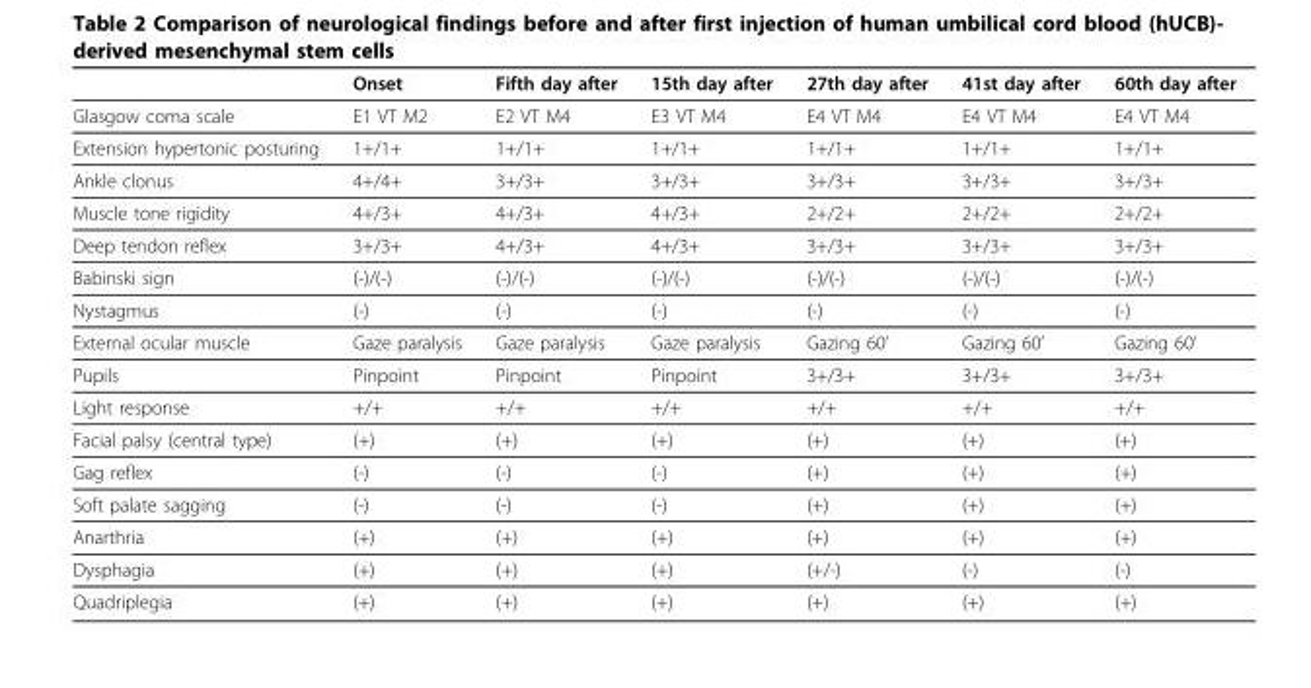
<table><thead><tr><td></td><td>Onset</td><td>Fifth day after</td><td>15th day after</td><td>27th day after</td><td>41st day after</td><td>60th day after</td></tr></thead><tbody><tr><td>Glasgow coma scale</td><td>E1 VT M2</td><td>E2 VT M4</td><td>E3 VT M4</td><td>E4 VT M4</td><td>E4 VT M4</td><td>E4 VT M4</td></tr><tr><td>Extension hypertonic posturing</td><td>1+/1+</td><td>1+/1+</td><td>1+/1+</td><td>1+/1+</td><td>1+/1+</td><td>1+/1+</td></tr><tr><td>Ankle clonus</td><td>4+/4+</td><td>3+/3+</td><td>3+/3+</td><td>3+/3+</td><td>3+/3+</td><td>3+/3+</td></tr><tr><td>Muscle tone rigidity</td><td>4+/3+</td><td>4+/3+</td><td>4+/3+</td><td>2+/2+</td><td>2+/2+</td><td>2+/2+</td></tr><tr><td>Deep tendon reflex</td><td>3+/3+</td><td>4+/3+</td><td>4+/3+</td><td>3+/3+</td><td>3+/3+</td><td>3+/3+</td></tr><tr><td>Babinski sign</td><td>(-)/(-)</td><td>(-)/(-)</td><td>(-)/(-)</td><td>(-)/(-)</td><td>(-)/(-)</td><td>(-)/(-)</td></tr><tr><td>Nystagmus</td><td>(-)</td><td>(-)</td><td>(-)</td><td>(-)</td><td>(-)</td><td>(-)</td></tr><tr><td>External ocular muscle</td><td>Gaze paralysis</td><td>Gaze paralysis</td><td>Gaze paralysis</td><td>Gazing 60’</td><td>Gazing 60’</td><td>Gazing 60’</td></tr><tr><td>Pupils</td><td>Pinpoint</td><td>Pinpoint</td><td>Pinpoint</td><td>3+/3+</td><td>3+/3+</td><td>3+/3+</td></tr><tr><td>Light response</td><td>+/+</td><td>+/+</td><td>+/+</td><td>+/+</td><td>+/+</td><td>+/+</td></tr><tr><td>Facial palsy (central type)</td><td>(+)</td><td>(+)</td><td>(+)</td><td>(+)</td><td>(+)</td><td>(+)</td></tr><tr><td>Gag reflex</td><td>(-)</td><td>(-)</td><td>(-)</td><td>(+)</td><td>(+)</td><td>(+)</td></tr><tr><td>Soft palate sagging</td><td>(-)</td><td>(-)</td><td>(-)</td><td>(+)</td><td>(+)</td><td>(+)</td></tr><tr><td>Anarthria</td><td>(+)</td><td>(+)</td><td>(+)</td><td>(+)</td><td>(+)</td><td>(+)</td></tr><tr><td>Dysphagia</td><td>(+)</td><td>(+)</td><td>(+)</td><td>(+/-)</td><td>(-)</td><td>(-)</td></tr><tr><td>Quadriplegia</td><td>(+)</td><td>(+)</td><td>(+)</td><td>(+)</td><td>(+)</td><td>(+)</td></tr></tbody></table>